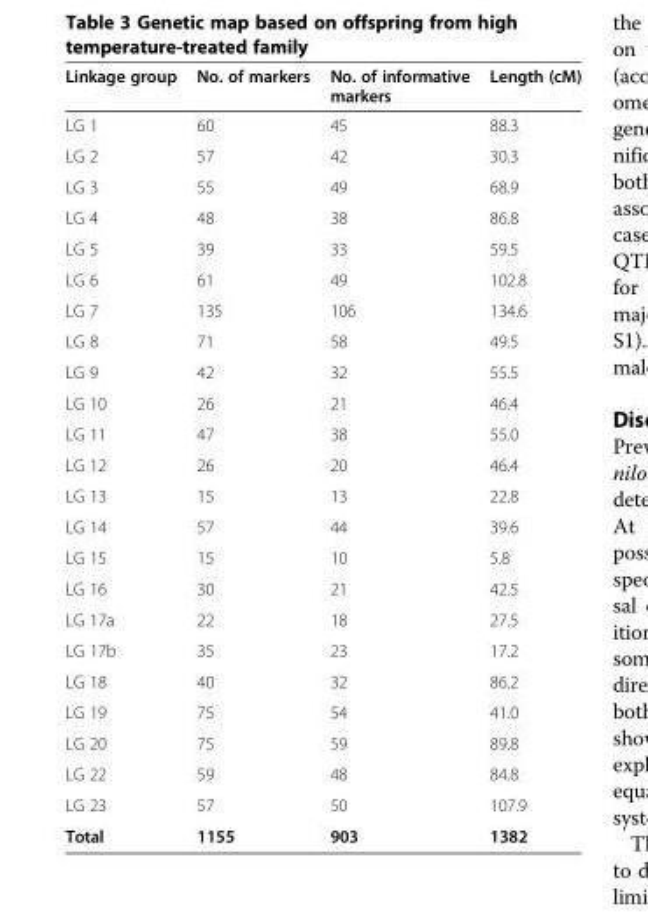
<table><thead><tr><td>Linkage group</td><td>No. of markers</td><td>No. of informative markers</td><td>Length (cM)</td></tr></thead><tbody><tr><td>LG 1</td><td>60</td><td>45</td><td>88.3</td></tr><tr><td>LG 2</td><td>57</td><td>42</td><td>30.3</td></tr><tr><td>LG 3</td><td>55</td><td>49</td><td>68.9</td></tr><tr><td>LG 4</td><td>48</td><td>38</td><td>86.8</td></tr><tr><td>LG 5</td><td>39</td><td>33</td><td>59.5</td></tr><tr><td>LG 6</td><td>61</td><td>49</td><td>102.8</td></tr><tr><td>LG 7</td><td>135</td><td>106</td><td>134.6</td></tr><tr><td>LG 8</td><td>71</td><td>58</td><td>49.5</td></tr><tr><td>LG 9</td><td>42</td><td>32</td><td>55.5</td></tr><tr><td>LG 10</td><td>26</td><td>21</td><td>46.4</td></tr><tr><td>LG 11</td><td>47</td><td>38</td><td>55.0</td></tr><tr><td>LG 12</td><td>26</td><td>20</td><td>46.4</td></tr><tr><td>LG 13</td><td>15</td><td>13</td><td>22.8</td></tr><tr><td>LG 14</td><td>57</td><td>44</td><td>39.6</td></tr><tr><td>LG 15</td><td>15</td><td>10</td><td>5.8</td></tr><tr><td>LG 16</td><td>30</td><td>21</td><td>42.5</td></tr><tr><td>LG 17a</td><td>22</td><td>18</td><td>27.5</td></tr><tr><td>LG 17b</td><td>35</td><td>23</td><td>17.2</td></tr><tr><td>LG 18</td><td>40</td><td>32</td><td>86.2</td></tr><tr><td>LG 19</td><td>75</td><td>54</td><td>41.0</td></tr><tr><td>LG 20</td><td>75</td><td>59</td><td>89.8</td></tr><tr><td>LG 22</td><td>59</td><td>48</td><td>84.8</td></tr><tr><td>LG 23</td><td>57</td><td>50</td><td>107.9</td></tr><tr><td>Total</td><td>1155</td><td>903</td><td>1382</td></tr></tbody></table>